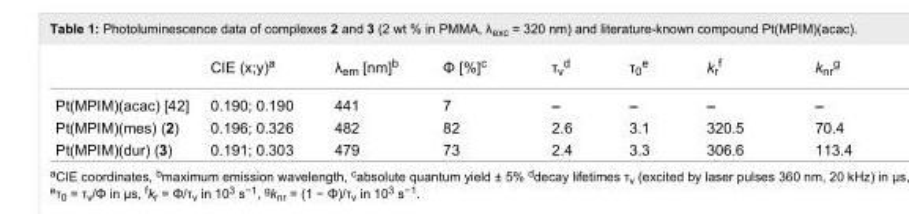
<table><thead><tr><td></td><td>CIE (x;y)<sup>a</sup></td><td>λ<sub>em</sub> [nm]<sup>b</sup></td><td>Φ [%]<sup>c</sup></td><td>τ<sub>ν</sub><sup>d</sup></td><td>τ<sub>0</sub><sup>e</sup></td><td>k<sub>r</sub><sup>f</sup></td><td>k<sub>nr</sub><sup>g</sup></td></tr></thead><tbody><tr><td>Pt(MPIM)(acac) [42]</td><td>0.190; 0.190</td><td>441</td><td>7</td><td>–</td><td>–</td><td>–</td><td>–</td></tr><tr><td>Pt(MPIM)(mes) (2)</td><td>0.196; 0.326</td><td>482</td><td>82</td><td>2.6</td><td>3.1</td><td>320.5</td><td>70.4</td></tr><tr><td>Pt(MPIM)(dur) (3)</td><td>0.191; 0.303</td><td>479</td><td>73</td><td>2.4</td><td>3.3</td><td>306.6</td><td>113.4</td></tr></tbody></table>